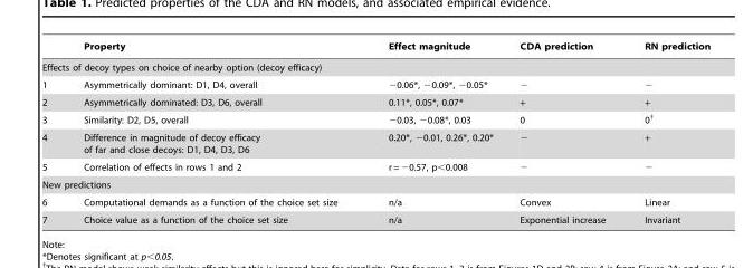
<table><thead><tr><td></td><td>Property</td><td>Effect magnitude</td><td>CDA prediction</td><td>RN prediction</td></tr></thead><tbody><tr><td colspan="5">Effects of decoy types on choice of nearby option (decoy efficacy)</td></tr><tr><td>1</td><td>Asymmetrically dominant: D1, D4, overall</td><td>−0.06*, −0.09*, −0.05*</td><td>−</td><td>−</td></tr><tr><td>2</td><td>Asymmetrically dominated: D3, D6, overall</td><td>0.11*, 0.05*, 0.07*</td><td>+</td><td>+</td></tr><tr><td>3</td><td>Similarity: D2, D5, overall</td><td>−0.03, −0.08*, 0.03</td><td>0</td><td>0†</td></tr><tr><td>4</td><td>Difference in magnitude of decoy efficacy of far and close decoys: D1, D4, D3, D6</td><td>0.20*, −0.01, 0.26*, 0.20*</td><td>−</td><td>+</td></tr><tr><td>5</td><td>Correlation of effects in rows 1 and 2</td><td>r = −0.57, p&lt;0.008</td><td>−</td><td>−</td></tr><tr><td colspan="5">New predictions</td></tr><tr><td>6</td><td>Computational demands as a function of the choice set size</td><td>n/a</td><td>Convex</td><td>Linear</td></tr><tr><td>7</td><td>Choice value as a function of the choice set size</td><td>n/a</td><td>Exponential increase</td><td>Invariant</td></tr></tbody></table>